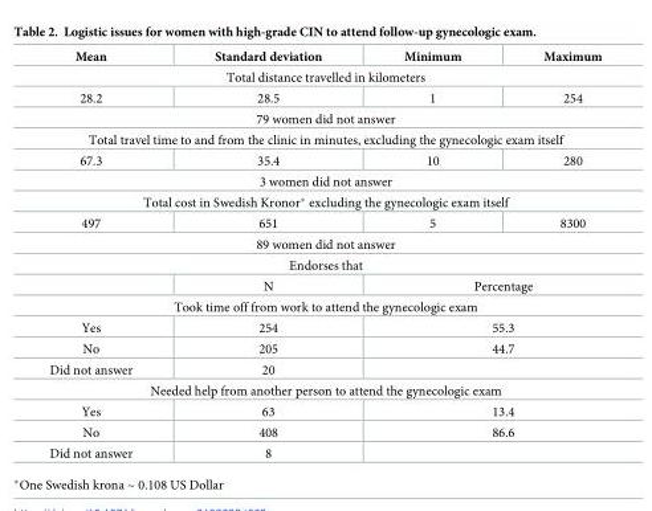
<table><thead><tr><td>Mean</td><td>Standard deviation</td><td>Minimum</td><td>Maximum</td></tr></thead><tbody><tr><td colspan="4">Total distance travelled in kilometers</td></tr><tr><td>28.2</td><td>28.5</td><td>1</td><td>254</td></tr><tr><td colspan="4">79 women did not answer</td></tr><tr><td colspan="4">Total travel time to and from the clinic in minutes, excluding the gynecologic exam itself</td></tr><tr><td>67.3</td><td>35.4</td><td>10</td><td>280</td></tr><tr><td colspan="4">3 women did not answer</td></tr><tr><td colspan="4">Total cost in Swedish Kronor* excluding the gynecologic exam itself</td></tr><tr><td>497</td><td>651</td><td>5</td><td>8300</td></tr><tr><td colspan="4">89 women did not answer</td></tr><tr><td colspan="4">Endorses that</td></tr><tr><td></td><td>N</td><td colspan="2">Percentage</td></tr><tr><td colspan="4">Took time off from work to attend the gynecologic exam</td></tr><tr><td>Yes</td><td>254</td><td colspan="2">55.3</td></tr><tr><td>No</td><td>205</td><td colspan="2">44.7</td></tr><tr><td>Did not answer</td><td>20</td><td colspan="2"></td></tr><tr><td colspan="4">Needed help from another person to attend the gynecologic exam</td></tr><tr><td>Yes</td><td>63</td><td colspan="2">13.4</td></tr><tr><td>No</td><td>408</td><td colspan="2">86.6</td></tr><tr><td>Did not answer</td><td>8</td><td colspan="2"></td></tr></tbody></table>